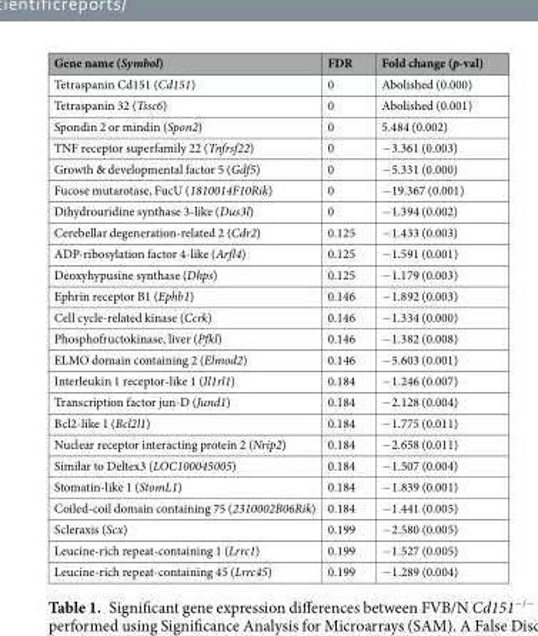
<table><thead><tr><td>Gene name (Symbol)</td><td>FDR</td><td>Fold change (p-val)</td></tr></thead><tbody><tr><td>Tetraspanin Cd151 (Cd151)</td><td>0</td><td>Abolished (0.000)</td></tr><tr><td>Tetraspanin 32 (Tssc6)</td><td>0</td><td>Abolished (0.001)</td></tr><tr><td>Spondin 2 or mindin (Spon2)</td><td>0</td><td>5.484 (0.002)</td></tr><tr><td>TNF receptor superfamily 22 (Tnfrsf22)</td><td>0</td><td>−3.361 (0.003)</td></tr><tr><td>Growth &amp; developmental factor 5 (Gdf5)</td><td>0</td><td>−5.331 (0.000)</td></tr><tr><td>Fucose mutarotase, FucU (1810014F10Rik)</td><td>0</td><td>−19.367 (0.001)</td></tr><tr><td>Dihydrouridine synthase 3-like (Dus3l)</td><td>0</td><td>−1.394 (0.002)</td></tr><tr><td>Cerebellar degeneration-related 2 (Cdr2)</td><td>0.125</td><td>−1.433 (0.003)</td></tr><tr><td>ADP-ribosylation factor 4-like (Arfl4)</td><td>0.125</td><td>−1.591 (0.001)</td></tr><tr><td>Deoxyhypusine synthase (Dhps)</td><td>0.125</td><td>−1.179 (0.003)</td></tr><tr><td>Ephrin receptor B1 (Ephb1)</td><td>0.146</td><td>−1.892 (0.003)</td></tr><tr><td>Cell cycle-related kinase (Ccrk)</td><td>0.146</td><td>−1.334 (0.000)</td></tr><tr><td>Phosphofructokinase, liver (Pfkl)</td><td>0.146</td><td>−1.382 (0.008)</td></tr><tr><td>ELMO domain containing 2 (Elmod2)</td><td>0.146</td><td>−5.603 (0.001)</td></tr><tr><td>Interleukin 1 receptor-like 1 (Il1rl1)</td><td>0.184</td><td>−1.246 (0.007)</td></tr><tr><td>Transcription factor jun-D (Jund1)</td><td>0.184</td><td>−2.128 (0.004)</td></tr><tr><td>Bcl2-like 1 (Bcl2l1)</td><td>0.184</td><td>−1.775 (0.011)</td></tr><tr><td>Nuclear receptor interacting protein 2 (Nrip2)</td><td>0.184</td><td>−2.658 (0.011)</td></tr><tr><td>Similar to Deltex3 (LOC100045005)</td><td>0.184</td><td>−1.507 (0.004)</td></tr><tr><td>Stomatin-like 1 (StomL1)</td><td>0.184</td><td>−1.839 (0.001)</td></tr><tr><td>Coiled-coil domain containing 75 (2310002B06Rik)</td><td>0.184</td><td>−1.441 (0.005)</td></tr><tr><td>Scleraxis (Scx)</td><td>0.199</td><td>−2.580 (0.005)</td></tr><tr><td>Leucine-rich repeat-containing 1 (Lrrc1)</td><td>0.199</td><td>−1.527 (0.005)</td></tr><tr><td>Leucine-rich repeat-containing 45 (Lrrc45)</td><td>0.199</td><td>−1.289 (0.004)</td></tr></tbody></table>